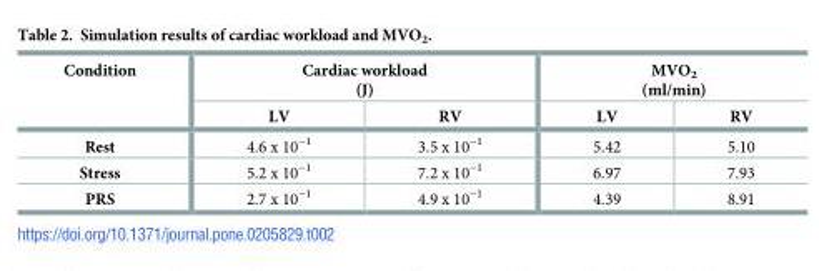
<table><thead><tr><td rowspan="2">Condition</td><td colspan="2">Cardiac workload (J)</td><td colspan="2">MVO<sub>2</sub> (ml/min)</td></tr><tr><td>LV</td><td>RV</td><td>LV</td><td>RV</td></tr></thead><tbody><tr><td>Rest</td><td>4.6 x 10<sup>−1</sup></td><td>3.5 x 10<sup>−1</sup></td><td>5.42</td><td>5.10</td></tr><tr><td>Stress</td><td>5.2 x 10<sup>−1</sup></td><td>7.2 x 10<sup>−1</sup></td><td>6.97</td><td>7.93</td></tr><tr><td>PRS</td><td>2.7 x 10<sup>−1</sup></td><td>4.9 x 10<sup>−1</sup></td><td>4.39</td><td>8.91</td></tr></tbody></table>